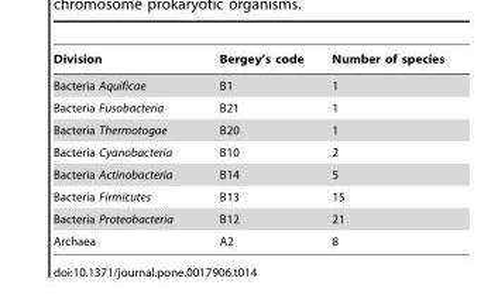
<table><thead><tr><td>Division</td><td>Bergey’s code</td><td>Number of species</td></tr></thead><tbody><tr><td>Bacteria Aquificae</td><td>B1</td><td>1</td></tr><tr><td>Bacteria Fusobacteria</td><td>B21</td><td>1</td></tr><tr><td>Bacteria Thermotogae</td><td>B20</td><td>1</td></tr><tr><td>Bacteria Cyanobacteria</td><td>B10</td><td>2</td></tr><tr><td>Bacteria Actinobacteria</td><td>B14</td><td>5</td></tr><tr><td>Bacteria Firmicutes</td><td>B13</td><td>15</td></tr><tr><td>Bacteria Proteobacteria</td><td>B12</td><td>21</td></tr><tr><td>Archaea</td><td>A2</td><td>8</td></tr></tbody></table>